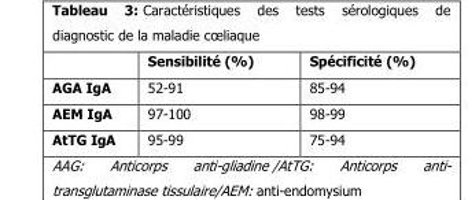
<table><thead><tr><td></td><td>Sensibilité (%)</td><td>Spécificité (%)</td></tr></thead><tbody><tr><td>AGA IgA</td><td>52-91</td><td>85-94</td></tr><tr><td>AEM IgA</td><td>97-100</td><td>98-99</td></tr><tr><td>AtTG IgA</td><td>95-99</td><td>75-94</td></tr></tbody></table>